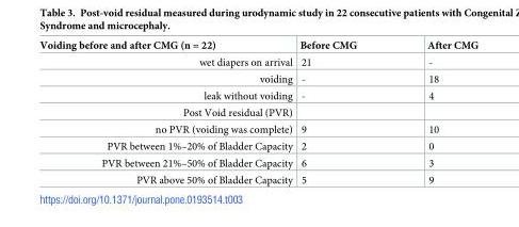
<table><thead><tr><td>Voiding before and after CMG (n = 22)</td><td>Before CMG</td><td>After CMG</td></tr></thead><tbody><tr><td>wet diapers on arrival</td><td>21</td><td>-</td></tr><tr><td>voiding</td><td>-</td><td>18</td></tr><tr><td>leak without voiding</td><td>-</td><td>4</td></tr><tr><td colspan="3">Post Void residual (PVR)</td></tr><tr><td>no PVR (voiding was complete)</td><td>9</td><td>10</td></tr><tr><td>PVR between 1%–20% of Bladder Capacity</td><td>2</td><td>0</td></tr><tr><td>PVR between 21%–50% of Bladder Capacity</td><td>6</td><td>3</td></tr><tr><td>PVR above 50% of Bladder Capacity</td><td>5</td><td>9</td></tr></tbody></table>